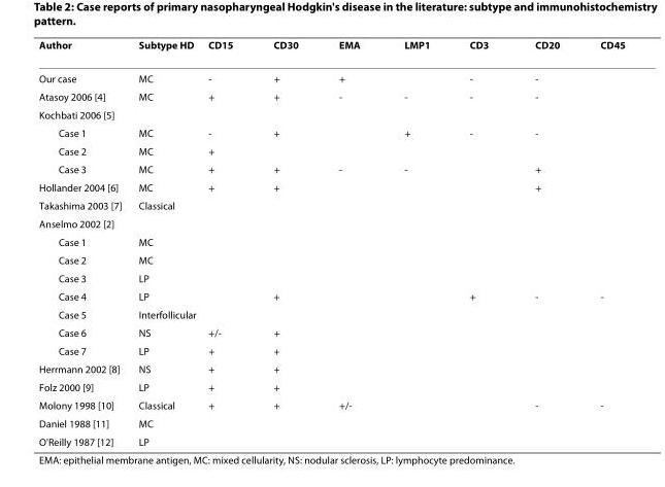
<table><thead><tr><td>Author</td><td>Subtype HD</td><td>CD15</td><td>CD30</td><td>EMA</td><td>LMP1</td><td>CD3</td><td>CD20</td><td>CD45</td></tr></thead><tbody><tr><td>Our case</td><td>MC</td><td>-</td><td>+</td><td>+</td><td></td><td>-</td><td>-</td><td></td></tr><tr><td>Atasoy 2006 [4]</td><td>MC</td><td>+</td><td>+</td><td>-</td><td>-</td><td>-</td><td>-</td><td></td></tr><tr><td colspan="9">Kochbati 2006 [5]</td></tr><tr><td>Case 1</td><td>MC</td><td>-</td><td>+</td><td></td><td>+</td><td>-</td><td>-</td><td></td></tr><tr><td>Case 2</td><td>MC</td><td>+</td><td></td><td></td><td></td><td></td><td></td><td></td></tr><tr><td>Case 3</td><td>MC</td><td>+</td><td>+</td><td>-</td><td>-</td><td></td><td>+</td><td></td></tr><tr><td>Hollander 2004 [6]</td><td>MC</td><td>+</td><td>+</td><td></td><td></td><td></td><td>+</td><td></td></tr><tr><td>Takashima 2003 [7]</td><td>Classical</td><td></td><td></td><td></td><td></td><td></td><td></td><td></td></tr><tr><td colspan="9">Anselmo 2002 [2]</td></tr><tr><td>Case 1</td><td>MC</td><td></td><td></td><td></td><td></td><td></td><td></td><td></td></tr><tr><td>Case 2</td><td>MC</td><td></td><td></td><td></td><td></td><td></td><td></td><td></td></tr><tr><td>Case 3</td><td>LP</td><td></td><td></td><td></td><td></td><td></td><td></td><td></td></tr><tr><td>Case 4</td><td>LP</td><td></td><td>+</td><td></td><td></td><td>+</td><td>-</td><td>-</td></tr><tr><td>Case 5</td><td>Interfollicular</td><td></td><td></td><td></td><td></td><td></td><td></td><td></td></tr><tr><td>Case 6</td><td>NS</td><td>+/-</td><td>+</td><td></td><td></td><td></td><td></td><td></td></tr><tr><td>Case 7</td><td>LP</td><td>+</td><td>+</td><td></td><td></td><td></td><td></td><td></td></tr><tr><td>Herrmann 2002 [8]</td><td>NS</td><td>+</td><td>+</td><td></td><td></td><td></td><td></td><td></td></tr><tr><td>Folz 2000 [9]</td><td>LP</td><td>+</td><td>+</td><td></td><td></td><td></td><td></td><td></td></tr><tr><td>Molony 1998 [10]</td><td>Classical</td><td>+</td><td>+</td><td>+/-</td><td></td><td></td><td>-</td><td>-</td></tr><tr><td>Daniel 1988 [11]</td><td>MC</td><td></td><td></td><td></td><td></td><td></td><td></td><td></td></tr><tr><td>O&#x27;Reilly 1987 [12]</td><td>LP</td><td></td><td></td><td></td><td></td><td></td><td></td><td></td></tr></tbody></table>